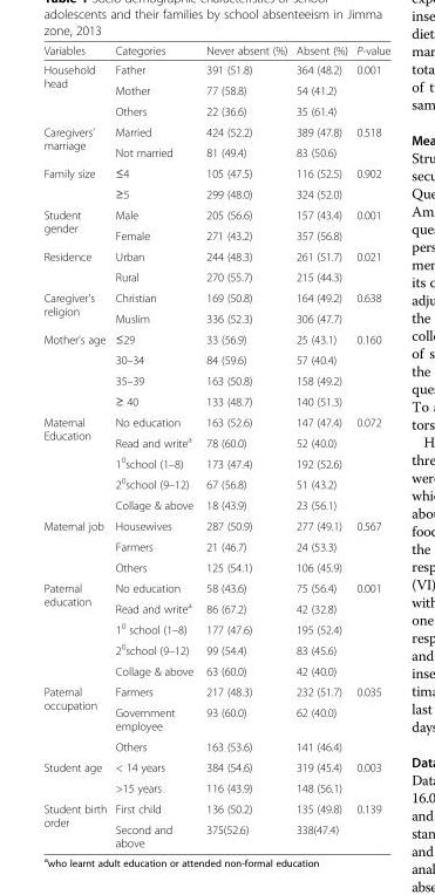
<table><thead><tr><td>Variables</td><td>Categories</td><td>Never absent (%)</td><td>Absent (%)</td><td>P-value</td></tr></thead><tbody><tr><td rowspan="3">Household head</td><td>Father</td><td>391 (51.8)</td><td>364 (48.2)</td><td rowspan="3">0.001</td></tr><tr><td>Mother</td><td>77 (58.8)</td><td>54 (41.2)</td></tr><tr><td>Others</td><td>22 (36.6)</td><td>35 (61.4)</td></tr><tr><td rowspan="2">Caregivers’ marriage</td><td>Married</td><td>424 (52.2)</td><td>389 (47.8)</td><td rowspan="2">0.518</td></tr><tr><td>Not married</td><td>81 (49.4)</td><td>83 (50.6)</td></tr><tr><td rowspan="2">Family size</td><td>≤4</td><td>105 (47.5)</td><td>116 (52.5)</td><td rowspan="2">0.902</td></tr><tr><td>≥5</td><td>299 (48.0)</td><td>324 (52.0)</td></tr><tr><td rowspan="2">Student gender</td><td>Male</td><td>205 (56.6)</td><td>157 (43.4)</td><td rowspan="2">0.001</td></tr><tr><td>Female</td><td>271 (43.2)</td><td>357 (56.8)</td></tr><tr><td rowspan="2">Residence</td><td>Urban</td><td>244 (48.3)</td><td>261 (51.7)</td><td rowspan="2">0.021</td></tr><tr><td>Rural</td><td>270 (55.7)</td><td>215 (44.3)</td></tr><tr><td rowspan="2">Caregiver’s religion</td><td>Christian</td><td>169 (50.8)</td><td>164 (49.2)</td><td rowspan="2">0.638</td></tr><tr><td>Muslim</td><td>336 (52.3)</td><td>306 (47.7)</td></tr><tr><td rowspan="4">Mother’s age</td><td>≤29</td><td>33 (56.9)</td><td>25 (43.1)</td><td rowspan="4">0.160</td></tr><tr><td>30–34</td><td>84 (59.6)</td><td>57 (40.4)</td></tr><tr><td>35–39</td><td>163 (50.8)</td><td>158 (49.2)</td></tr><tr><td>≥ 40</td><td>133 (48.7)</td><td>140 (51.3)</td></tr><tr><td rowspan="5">Maternal Education</td><td>No education</td><td>163 (52.6)</td><td>147 (47.4)</td><td rowspan="5">0.072</td></tr><tr><td>Read and write<sup>a</sup></td><td>78 (60.0)</td><td>52 (40.0)</td></tr><tr><td>1<sup>0</sup>school (1–8)</td><td>173 (47.4)</td><td>192 (52.6)</td></tr><tr><td>2<sup>0</sup>school (9–12)</td><td>67 (56.8)</td><td>51 (43.2)</td></tr><tr><td>Collage &amp; above</td><td>18 (43.9)</td><td>23 (56.1)</td></tr><tr><td rowspan="3">Maternal job</td><td>Housewives</td><td>287 (50.9)</td><td>277 (49.1)</td><td rowspan="3">0.567</td></tr><tr><td>Farmers</td><td>21 (46.7)</td><td>24 (53.3)</td></tr><tr><td>Others</td><td>125 (54.1)</td><td>106 (45.9)</td></tr><tr><td rowspan="5">Paternal education</td><td>No education</td><td>58 (43.6)</td><td>75 (56.4)</td><td rowspan="5">0.001</td></tr><tr><td>Read and write<sup>a</sup></td><td>86 (67.2)</td><td>42 (32.8)</td></tr><tr><td>1<sup>0</sup> school (1–8)</td><td>177 (47.6)</td><td>195 (52.4)</td></tr><tr><td>2<sup>0</sup>school (9–12)</td><td>99 (54.4)</td><td>83 (45.6)</td></tr><tr><td>Collage &amp; above</td><td>63 (60.0)</td><td>42 (40.0)</td></tr><tr><td rowspan="3">Paternal occupation</td><td>Farmers</td><td>217 (48.3)</td><td>232 (51.7)</td><td>0.035</td></tr><tr><td>Government employee</td><td>93 (60.0)</td><td>62 (40.0)</td><td></td></tr><tr><td>Others</td><td>163 (53.6)</td><td>141 (46.4)</td><td></td></tr><tr><td rowspan="2">Student age</td><td>&lt; 14 years</td><td>384 (54.6)</td><td>319 (45.4)</td><td>0.003</td></tr><tr><td>&gt;15 years</td><td>116 (43.9)</td><td>148 (56.1)</td><td></td></tr><tr><td rowspan="2">Student birth order</td><td>First child</td><td>136 (50.2)</td><td>135 (49.8)</td><td>0.139</td></tr><tr><td>Second and above</td><td>375(52.6)</td><td>338(47.4)</td><td></td></tr></tbody></table>